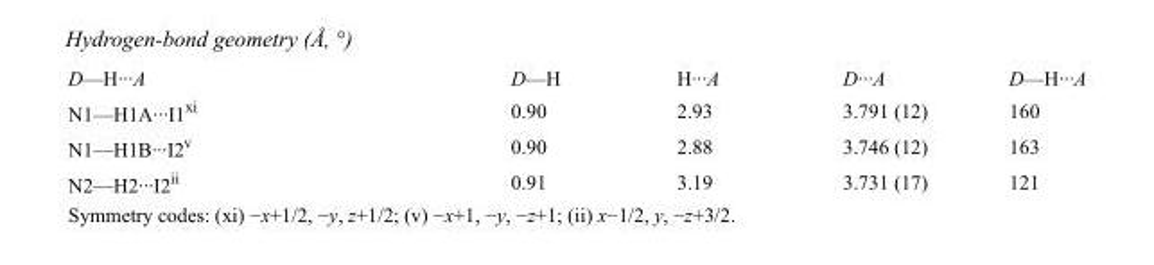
<table><tbody><tr><td>D—H···A</td><td>D—H</td><td>H···A</td><td>D···A</td><td>D—H···A</td></tr><tr><td>N1—H1A···I1<sup>xi</sup></td><td>0.90</td><td>2.93</td><td>3.791 (12)</td><td>160</td></tr><tr><td>N1—H1B···I2<sup>v</sup></td><td>0.90</td><td>2.88</td><td>3.746 (12)</td><td>163</td></tr><tr><td>N2—H2···I2<sup>ii</sup></td><td>0.91</td><td>3.19</td><td>3.731 (17)</td><td>121</td></tr></tbody></table>